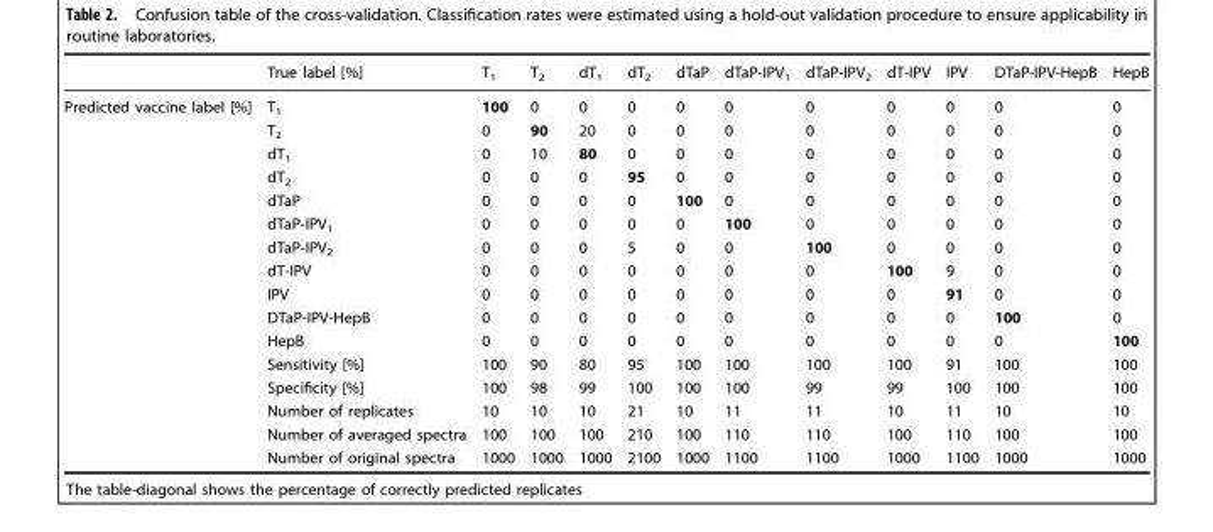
<table><thead><tr><td></td><td>True label [%]</td><td>T<sub>1</sub></td><td>T<sub>2</sub></td><td>dT<sub>1</sub></td><td>dT<sub>2</sub></td><td>dTaP</td><td>dTaP-IPV<sub>1</sub></td><td>dTaP-IPV<sub>2</sub></td><td>dT-IPV</td><td>IPV</td><td>DTaP-IPV-HepB</td><td>HepB</td></tr></thead><tbody><tr><td rowspan="16">Predicted vaccine label [%]</td><td>T<sub>1</sub></td><td>100</td><td>0</td><td>0</td><td>0</td><td>0</td><td>0</td><td>0</td><td>0</td><td>0</td><td>0</td><td>0</td></tr><tr><td>T<sub>2</sub></td><td>0</td><td>90</td><td>20</td><td>0</td><td>0</td><td>0</td><td>0</td><td>0</td><td>0</td><td>0</td><td>0</td></tr><tr><td>dT<sub>1</sub></td><td>0</td><td>10</td><td>80</td><td>0</td><td>0</td><td>0</td><td>0</td><td>0</td><td>0</td><td>0</td><td>0</td></tr><tr><td>dT<sub>2</sub></td><td>0</td><td>0</td><td>0</td><td>95</td><td>0</td><td>0</td><td>0</td><td>0</td><td>0</td><td>0</td><td>0</td></tr><tr><td>dTaP</td><td>0</td><td>0</td><td>0</td><td>0</td><td>100</td><td>0</td><td>0</td><td>0</td><td>0</td><td>0</td><td>0</td></tr><tr><td>dTaP-IPV<sub>1</sub></td><td>0</td><td>0</td><td>0</td><td>0</td><td>0</td><td>100</td><td>0</td><td>0</td><td>0</td><td>0</td><td>0</td></tr><tr><td>dTaP-IPV<sub>2</sub></td><td>0</td><td>0</td><td>0</td><td>5</td><td>0</td><td>0</td><td>100</td><td>0</td><td>0</td><td>0</td><td>0</td></tr><tr><td>dT-IPV</td><td>0</td><td>0</td><td>0</td><td>0</td><td>0</td><td>0</td><td>0</td><td>100</td><td>9</td><td>0</td><td>0</td></tr><tr><td>IPV</td><td>0</td><td>0</td><td>0</td><td>0</td><td>0</td><td>0</td><td>0</td><td>0</td><td>91</td><td>0</td><td>0</td></tr><tr><td>DTaP-IPV-HepB</td><td>0</td><td>0</td><td>0</td><td>0</td><td>0</td><td>0</td><td>0</td><td>0</td><td>0</td><td>100</td><td>0</td></tr><tr><td>HepB</td><td>0</td><td>0</td><td>0</td><td>0</td><td>0</td><td>0</td><td>0</td><td>0</td><td>0</td><td>0</td><td>100</td></tr><tr><td>Sensitivity [%]</td><td>100</td><td>90</td><td>80</td><td>95</td><td>100</td><td>100</td><td>100</td><td>100</td><td>91</td><td>100</td><td>100</td></tr><tr><td>Specificity [%]</td><td>100</td><td>98</td><td>99</td><td>100</td><td>100</td><td>100</td><td>99</td><td>99</td><td>100</td><td>100</td><td>100</td></tr><tr><td>Number of replicates</td><td>10</td><td>10</td><td>10</td><td>21</td><td>10</td><td>11</td><td>11</td><td>10</td><td>11</td><td>10</td><td>10</td></tr><tr><td>Number of averaged spectra</td><td>100</td><td>100</td><td>100</td><td>210</td><td>100</td><td>110</td><td>110</td><td>100</td><td>110</td><td>100</td><td>100</td></tr><tr><td>Number of original spectra</td><td>1000</td><td>1000</td><td>1000</td><td>2100</td><td>1000</td><td>1100</td><td>1100</td><td>1000</td><td>1100</td><td>1000</td><td>1000</td></tr></tbody></table>